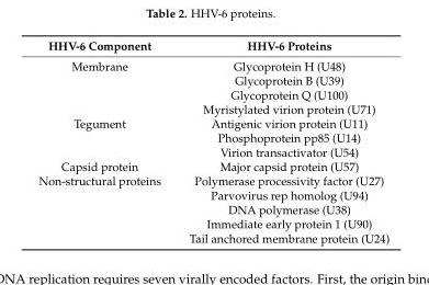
<table><thead><tr><td>HHV-6 Component</td><td>HHV-6 Proteins</td></tr></thead><tbody><tr><td rowspan="4">Membrane</td><td>Glycoprotein H (U48)</td></tr><tr><td>Glycoprotein B (U39)</td></tr><tr><td>Glycoprotein Q (U100)</td></tr><tr><td>Myristylated virion protein (U71)</td></tr><tr><td rowspan="3">Tegument</td><td>Antigenic virion protein (U11)</td></tr><tr><td>Phosphoprotein pp85 (U14)</td></tr><tr><td>Virion transactivator (U54)</td></tr><tr><td>Capsid protein</td><td>Major capsid protein (U57)</td></tr><tr><td rowspan="5">Non-structural proteins</td><td>Polymerase processivity factor (U27)</td></tr><tr><td>Parvovirus rep homolog (U94)</td></tr><tr><td>DNA polymerase (U38)</td></tr><tr><td>Immediate early protein 1 (U90)</td></tr><tr><td>Tail anchored membrane protein (U24)</td></tr></tbody></table>